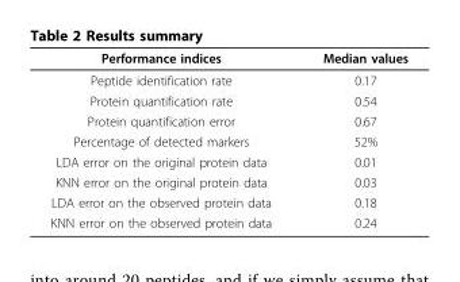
<table><thead><tr><td>Performance indices</td><td>Median values</td></tr></thead><tbody><tr><td>Peptide identification rate</td><td>0.17</td></tr><tr><td>Protein quantification rate</td><td>0.54</td></tr><tr><td>Protein quantification error</td><td>0.67</td></tr><tr><td>Percentage of detected markers</td><td>52%</td></tr><tr><td>LDA error on the original protein data</td><td>0.01</td></tr><tr><td>KNN error on the original protein data</td><td>0.03</td></tr><tr><td>LDA error on the observed protein data</td><td>0.18</td></tr><tr><td>KNN error on the observed protein data</td><td>0.24</td></tr></tbody></table>